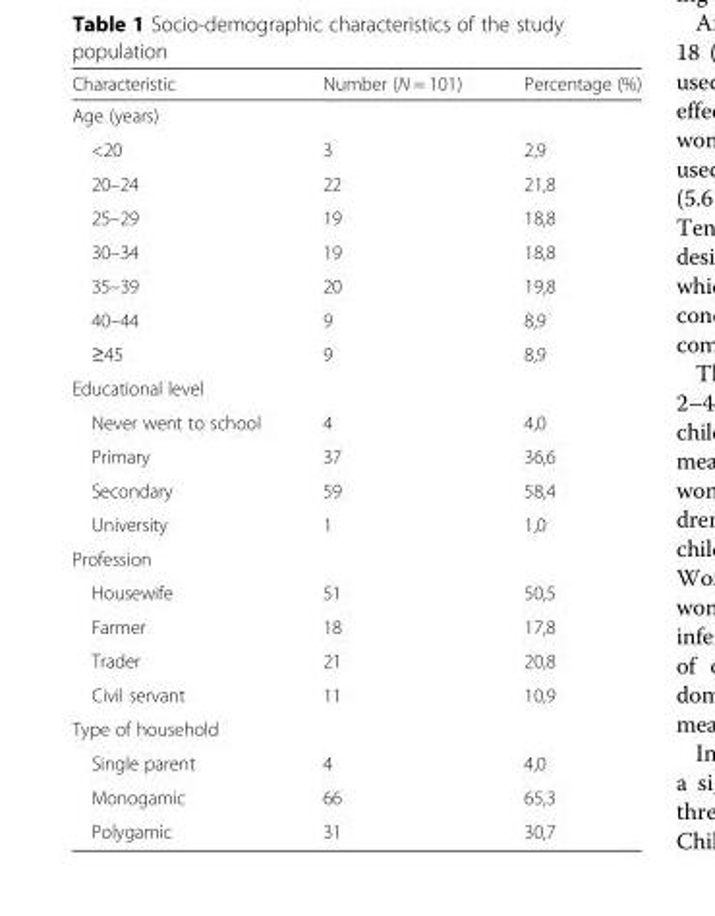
<table><thead><tr><td>Characteristic</td><td>Number (N = 101)</td><td>Percentage (%)</td></tr></thead><tbody><tr><td colspan="3">Age (years)</td></tr><tr><td>&lt;20</td><td>3</td><td>2,9</td></tr><tr><td>20–24</td><td>22</td><td>21,8</td></tr><tr><td>25–29</td><td>19</td><td>18,8</td></tr><tr><td>30–34</td><td>19</td><td>18,8</td></tr><tr><td>35–39</td><td>20</td><td>19,8</td></tr><tr><td>40–44</td><td>9</td><td>8,9</td></tr><tr><td>≥45</td><td>9</td><td>8,9</td></tr><tr><td colspan="3">Educational level</td></tr><tr><td>Never went to school</td><td>4</td><td>4,0</td></tr><tr><td>Primary</td><td>37</td><td>36,6</td></tr><tr><td>Secondary</td><td>59</td><td>58,4</td></tr><tr><td>University</td><td>1</td><td>1,0</td></tr><tr><td colspan="3">Profession</td></tr><tr><td>Housewife</td><td>51</td><td>50,5</td></tr><tr><td>Farmer</td><td>18</td><td>17,8</td></tr><tr><td>Trader</td><td>21</td><td>20,8</td></tr><tr><td>Civil servant</td><td>11</td><td>10,9</td></tr><tr><td colspan="3">Type of household</td></tr><tr><td>Single parent</td><td>4</td><td>4,0</td></tr><tr><td>Monogamic</td><td>66</td><td>65,3</td></tr><tr><td>Polygamic</td><td>31</td><td>30,7</td></tr></tbody></table>